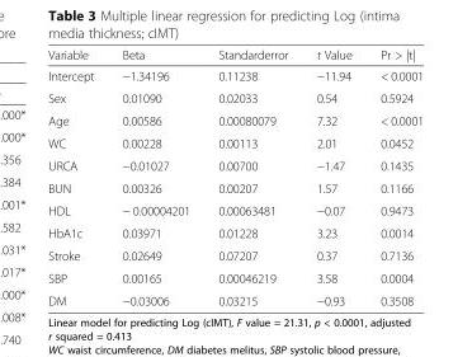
<table><thead><tr><td>Variable</td><td>Beta</td><td>Standarderror</td><td>t Value</td><td>Pr &gt; |t|</td></tr></thead><tbody><tr><td>Intercept</td><td>−1.34196</td><td>0.11238</td><td>−11.94</td><td>&lt; 0.0001</td></tr><tr><td>Sex</td><td>0.01090</td><td>0.02033</td><td>0.54</td><td>0.5924</td></tr><tr><td>Age</td><td>0.00586</td><td>0.00080079</td><td>7.32</td><td>&lt; 0.0001</td></tr><tr><td>WC</td><td>0.00228</td><td>0.00113</td><td>2.01</td><td>0.0452</td></tr><tr><td>URCA</td><td>−0.01027</td><td>0.00700</td><td>−1.47</td><td>0.1435</td></tr><tr><td>BUN</td><td>0.00326</td><td>0.00207</td><td>1.57</td><td>0.1166</td></tr><tr><td>HDL</td><td>− 0.00004201</td><td>0.00063481</td><td>−0.07</td><td>0.9473</td></tr><tr><td>HbA1c</td><td>0.03971</td><td>0.01228</td><td>3.23</td><td>0.0014</td></tr><tr><td>Stroke</td><td>0.02649</td><td>0.07207</td><td>0.37</td><td>0.7136</td></tr><tr><td>SBP</td><td>0.00165</td><td>0.00046219</td><td>3.58</td><td>0.0004</td></tr><tr><td>DM</td><td>−0.03006</td><td>0.03215</td><td>−0.93</td><td>0.3508</td></tr></tbody></table>